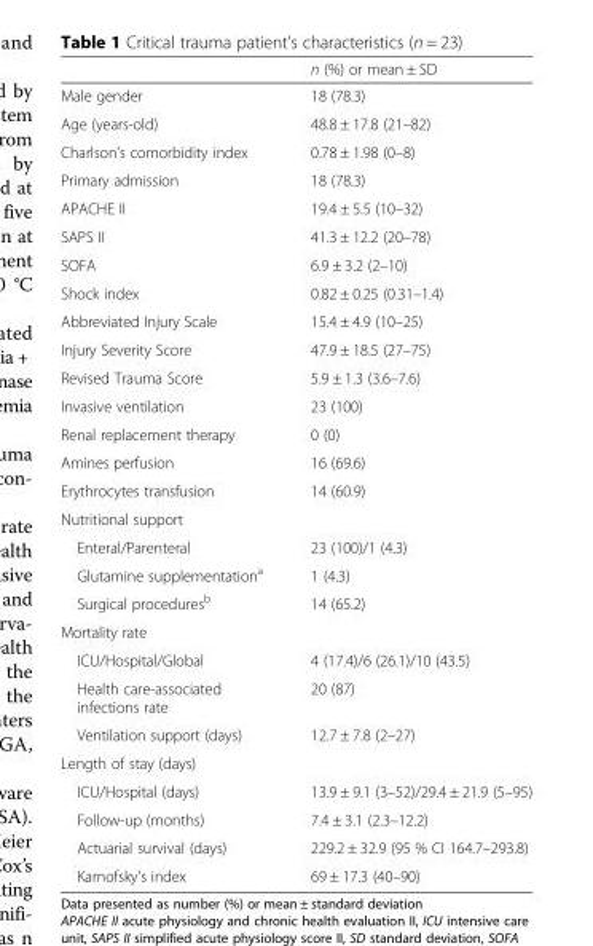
<table><thead><tr><td></td><td>n (%) or mean ± SD</td></tr></thead><tbody><tr><td>Male gender</td><td>18 (78.3)</td></tr><tr><td>Age (years-old)</td><td>48.8 ± 17.8 (21–82)</td></tr><tr><td>Charlson’s comorbidity index</td><td>0.78 ± 1.98 (0–8)</td></tr><tr><td>Primary admission</td><td>18 (78.3)</td></tr><tr><td>APACHE II</td><td>19.4 ± 5.5 (10–32)</td></tr><tr><td>SAPS II</td><td>41.3 ± 12.2 (20–78)</td></tr><tr><td>SOFA</td><td>6.9 ± 3.2 (2–10)</td></tr><tr><td>Shock index</td><td>0.82 ± 0.25 (0.31–1.4)</td></tr><tr><td>Abbreviated Injury Scale</td><td>15.4 ± 4.9 (10–25)</td></tr><tr><td>Injury Severity Score</td><td>47.9 ± 18.5 (27–75)</td></tr><tr><td>Revised Trauma Score</td><td>5.9 ± 1.3 (3.6–7.6)</td></tr><tr><td>Invasive ventilation</td><td>23 (100)</td></tr><tr><td>Renal replacement therapy</td><td>0 (0)</td></tr><tr><td>Amines perfusion</td><td>16 (69.6)</td></tr><tr><td>Erythrocytes transfusion</td><td>14 (60.9)</td></tr><tr><td colspan="2">Nutritional support</td></tr><tr><td>Enteral/Parenteral</td><td>23 (100)/1 (4.3)</td></tr><tr><td>Glutamine supplementation<sup>a</sup></td><td>1 (4.3)</td></tr><tr><td>Surgical procedures<sup>b</sup></td><td>14 (65.2)</td></tr><tr><td colspan="2">Mortality rate</td></tr><tr><td>ICU/Hospital/Global</td><td>4 (17.4)/6 (26.1)/10 (43.5)</td></tr><tr><td>Health care-associated infections rate</td><td>20 (87)</td></tr><tr><td>Ventilation support (days)</td><td>12.7 ± 7.8 (2–27)</td></tr><tr><td colspan="2">Length of stay (days)</td></tr><tr><td>ICU/Hospital (days)</td><td>13.9 ± 9.1 (3–52)/29.4 ± 21.9 (5–95)</td></tr><tr><td>Follow-up (months)</td><td>7.4 ± 3.1 (2.3–12.2)</td></tr><tr><td>Actuarial survival (days)</td><td>229.2 ± 32.9 (95 % CI 164.7–293.8)</td></tr><tr><td>Karnofsky’s index</td><td>69 ± 17.3 (40–90)</td></tr></tbody></table>